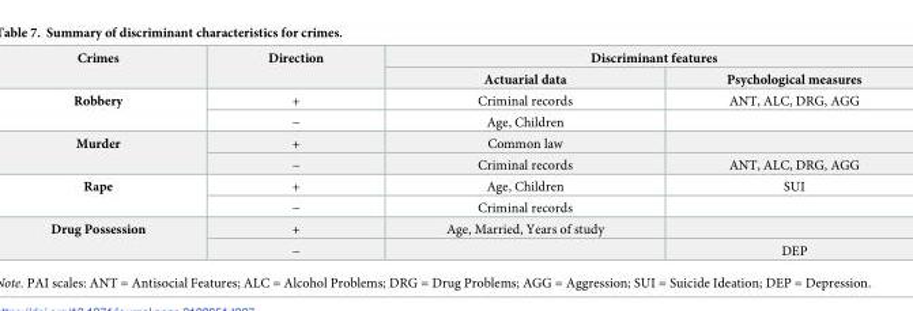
<table><thead><tr><td rowspan="2">Crimes</td><td rowspan="2">Direction</td><td colspan="2">Discriminant features</td></tr><tr><td>Actuarial data</td><td>Psychological measures</td></tr></thead><tbody><tr><td rowspan="2">Robbery</td><td>+</td><td>Criminal records</td><td>ANT, ALC, DRG, AGG</td></tr><tr><td>−</td><td>Age, Children</td><td></td></tr><tr><td rowspan="2">Murder</td><td>+</td><td>Common law</td><td></td></tr><tr><td>−</td><td>Criminal records</td><td>ANT, ALC, DRG, AGG</td></tr><tr><td rowspan="2">Rape</td><td>+</td><td>Age, Children</td><td>SUI</td></tr><tr><td>−</td><td>Criminal records</td><td></td></tr><tr><td rowspan="2">Drug Possession</td><td>+</td><td>Age, Married, Years of study</td><td></td></tr><tr><td>−</td><td></td><td>DEP</td></tr></tbody></table>